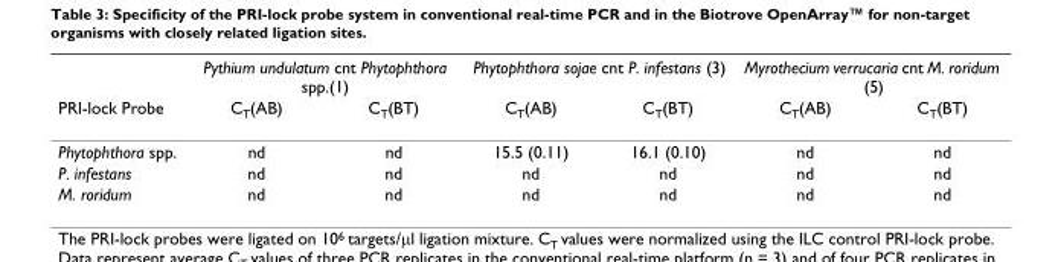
<table><thead><tr><td rowspan="2">PRI-lock Probe</td><td colspan="2">Pythium undulatum cnt Phytophthora spp.(1)</td><td colspan="2">Phytophthora sojae cnt P. infestans (3)</td><td colspan="2">Myrothecium verrucaria cnt M. roridum (5)</td></tr><tr><td>C<sub>T</sub>(AB)</td><td>C<sub>T</sub>(BT)</td><td>C<sub>T</sub>(AB)</td><td>C<sub>T</sub>(BT)</td><td>C<sub>T</sub>(AB)</td><td>C<sub>T</sub>(BT)</td></tr></thead><tbody><tr><td>Phytophthora spp.</td><td>nd</td><td>nd</td><td>15.5 (0.11)</td><td>16.1 (0.10)</td><td>nd</td><td>nd</td></tr><tr><td>P. infestans</td><td>nd</td><td>nd</td><td>nd</td><td>nd</td><td>nd</td><td>nd</td></tr><tr><td>M. roridum</td><td>nd</td><td>nd</td><td>nd</td><td>nd</td><td>nd</td><td>nd</td></tr></tbody></table>